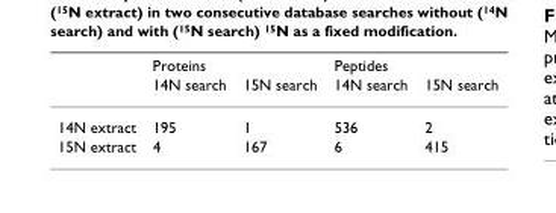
<table><thead><tr><td rowspan="2"></td><td colspan="2">Proteins</td><td colspan="2">Peptides</td></tr><tr><td>14N search</td><td>15N search</td><td>14N search</td><td>15N search</td></tr></thead><tbody><tr><td>14N extract</td><td>195</td><td>1</td><td>536</td><td>2</td></tr><tr><td>15N extract</td><td>4</td><td>167</td><td>6</td><td>415</td></tr></tbody></table>